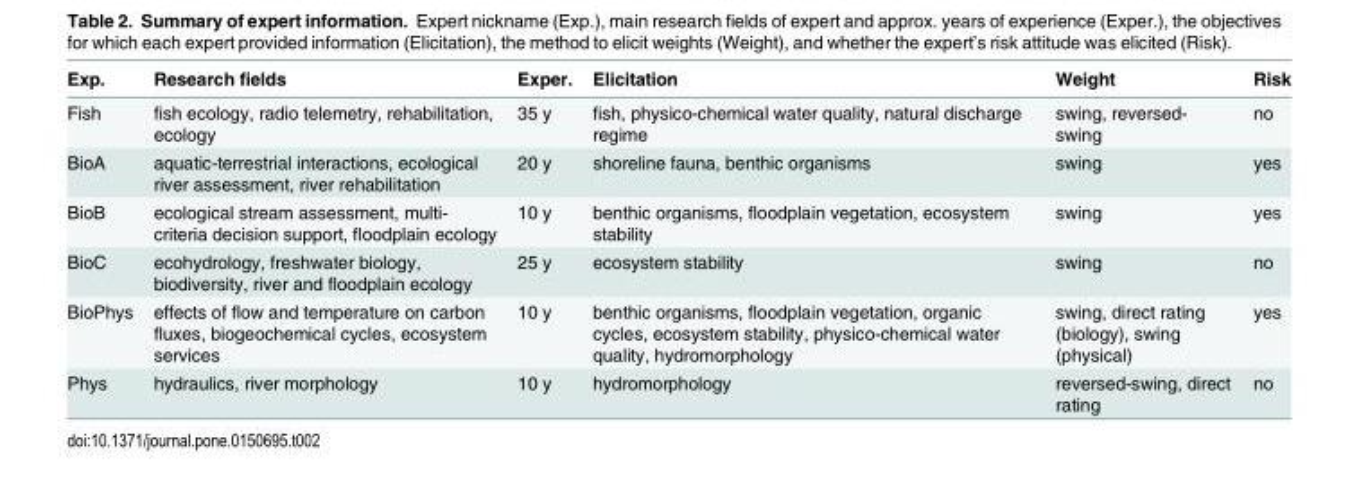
<table><thead><tr><td>Exp.</td><td>Research fields</td><td>Exper.</td><td>Elicitation</td><td>Weight</td><td>Risk</td></tr></thead><tbody><tr><td>Fish</td><td>fish ecology, radio telemetry, rehabilitation, ecology</td><td>35 y</td><td>fish, physico-chemical water quality, natural discharge regime</td><td>swing, reversed- swing</td><td>no</td></tr><tr><td>BioA</td><td>aquatic-terrestrial interactions, ecological river assessment, river rehabilitation</td><td>20 y</td><td>shoreline fauna, benthic organisms</td><td>swing</td><td>yes</td></tr><tr><td>BioB</td><td>ecological stream assessment, multi- criteria decision support, floodplain ecology</td><td>10 y</td><td>benthic organisms, floodplain vegetation, ecosystem stability</td><td>swing</td><td>yes</td></tr><tr><td>BioC</td><td>ecohydrology, freshwater biology, biodiversity, river and floodplain ecology</td><td>25 y</td><td>ecosystem stability</td><td>swing</td><td>no</td></tr><tr><td>BioPhys</td><td>effects of flow and temperature on carbon fluxes, biogeochemical cycles, ecosystem services</td><td>10 y</td><td>benthic organisms, floodplain vegetation, organic cycles, ecosystem stability, physico-chemical water quality, hydromorphology</td><td>swing, direct rating (biology), swing (physical)</td><td>yes</td></tr><tr><td>Phys</td><td>hydraulics, river morphology</td><td>10 y</td><td>hydromorphology</td><td>reversed-swing, direct rating</td><td>no</td></tr></tbody></table>